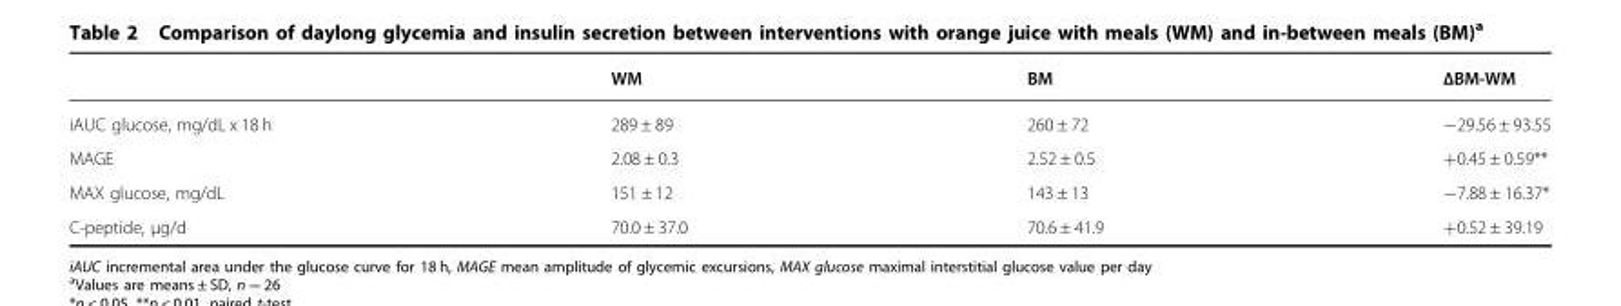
<table><thead><tr><td></td><td>WM</td><td>BM</td><td>ΔBM-WM</td></tr></thead><tbody><tr><td>iAUC glucose, mg/dL x 18 h</td><td>289 ± 89</td><td>260 ± 72</td><td>−29.56 ± 93.55</td></tr><tr><td>MAGE</td><td>2.08 ± 0.3</td><td>2.52 ± 0.5</td><td>+0.45 ± 0.59**</td></tr><tr><td>MAX glucose, mg/dL</td><td>151 ± 12</td><td>143 ± 13</td><td>−7.88 ± 16.37*</td></tr><tr><td>C-peptide, µg/d</td><td>70.0 ± 37.0</td><td>70.6 ± 41.9</td><td>+0.52 ± 39.19</td></tr></tbody></table>